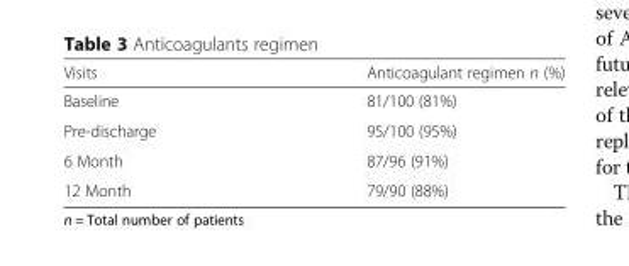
<table><thead><tr><td>Visits</td><td>Anticoagulant regimen n (%)</td></tr></thead><tbody><tr><td>Baseline</td><td>81/100 (81%)</td></tr><tr><td>Pre-discharge</td><td>95/100 (95%)</td></tr><tr><td>6 Month</td><td>87/96 (91%)</td></tr><tr><td>12 Month</td><td>79/90 (88%)</td></tr></tbody></table>